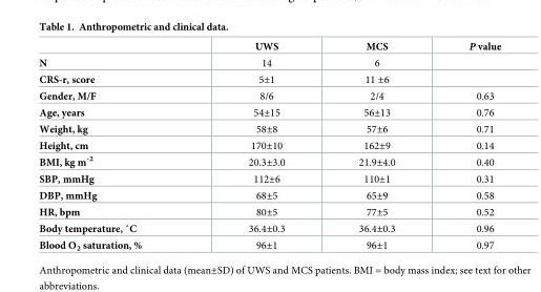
<table><thead><tr><td></td><td>UWS</td><td>MCS</td><td>P value</td></tr></thead><tbody><tr><td>N</td><td>14</td><td>6</td><td></td></tr><tr><td>CRS-r, score</td><td>5±1</td><td>11 ±6</td><td></td></tr><tr><td>Gender, M/F</td><td>8/6</td><td>2/4</td><td>0.63</td></tr><tr><td>Age, years</td><td>54±15</td><td>56±13</td><td>0.76</td></tr><tr><td>Weight, kg</td><td>58±8</td><td>57±6</td><td>0.71</td></tr><tr><td>Height, cm</td><td>170±10</td><td>162±9</td><td>0.14</td></tr><tr><td>BMI, kg m<sup>-2</sup></td><td>20.3±3.0</td><td>21.9±4.0</td><td>0.40</td></tr><tr><td>SBP, mmHg</td><td>112±6</td><td>110±1</td><td>0.31</td></tr><tr><td>DBP, mmHg</td><td>68±5</td><td>65±9</td><td>0.58</td></tr><tr><td>HR, bpm</td><td>80±5</td><td>77±5</td><td>0.52</td></tr><tr><td>Body temperature, ˚C</td><td>36.4±0.3</td><td>36.4±0.3</td><td>0.96</td></tr><tr><td>Blood O<sub>2</sub> saturation, %</td><td>96±1</td><td>96±1</td><td>0.97</td></tr></tbody></table>